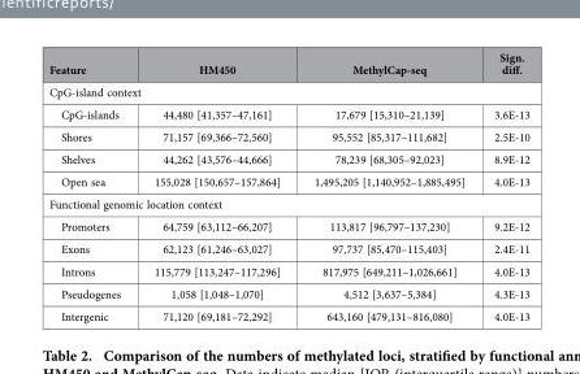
<table><thead><tr><td>Feature</td><td>HM450</td><td>MethylCap-seq</td><td>Sign. diff.</td></tr></thead><tbody><tr><td colspan="4">CpG-island context</td></tr><tr><td>CpG-islands</td><td>44,480 [41,357–47,161]</td><td>17,679 [15,310–21,139]</td><td>3.6E-13</td></tr><tr><td>Shores</td><td>71,157 [69,366–72,560]</td><td>95,552 [85,317–111,682]</td><td>2.5E-10</td></tr><tr><td>Shelves</td><td>44,262 [43,576–44,666]</td><td>78,239 [68,305–92,023]</td><td>8.9E-12</td></tr><tr><td>Open sea</td><td>155,028 [150,657–157,864]</td><td>1,495,205 [1,140,952–1,885,495]</td><td>4.0E-13</td></tr><tr><td colspan="4">Functional genomic location context</td></tr><tr><td>Promoters</td><td>64,759 [63,112–66,207]</td><td>113,817 [96,797–137,230]</td><td>9.2E-12</td></tr><tr><td>Exons</td><td>62,123 [61,246–63,027]</td><td>97,737 [85,470–115,403]</td><td>2.4E-11</td></tr><tr><td>Introns</td><td>115,779 [113,247–117,296]</td><td>817,975 [649,211–1,026,661]</td><td>4.0E-13</td></tr><tr><td>Pseudogenes</td><td>1,058 [1,048–1,070]</td><td>4,512 [3,637–5,384]</td><td>4.3E-13</td></tr><tr><td>Intergenic</td><td>71,120 [69,181–72,292]</td><td>643,160 [479,131–816,080]</td><td>4.0E-13</td></tr></tbody></table>